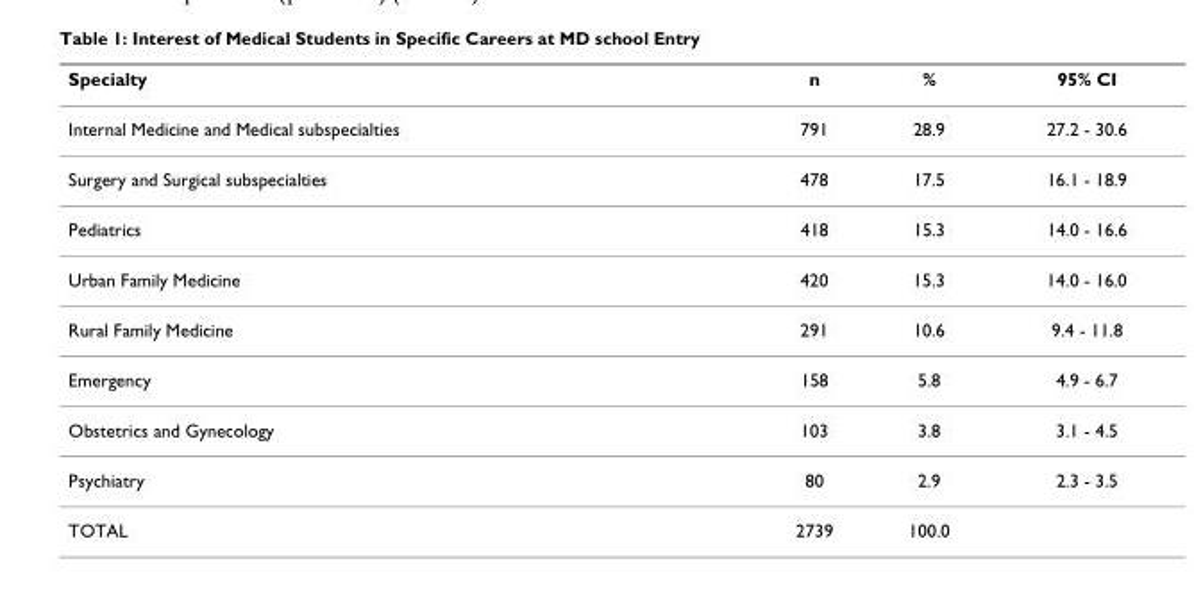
<table><thead><tr><td>Specialty</td><td>n</td><td>%</td><td>95% CI</td></tr></thead><tbody><tr><td>Internal Medicine and Medical subspecialties</td><td>791</td><td>28.9</td><td>27.2 - 30.6</td></tr><tr><td>Surgery and Surgical subspecialties</td><td>478</td><td>17.5</td><td>16.1 - 18.9</td></tr><tr><td>Pediatrics</td><td>418</td><td>15.3</td><td>14.0 - 16.6</td></tr><tr><td>Urban Family Medicine</td><td>420</td><td>15.3</td><td>14.0 - 16.0</td></tr><tr><td>Rural Family Medicine</td><td>291</td><td>10.6</td><td>9.4 - 11.8</td></tr><tr><td>Emergency</td><td>158</td><td>5.8</td><td>4.9 - 6.7</td></tr><tr><td>Obstetrics and Gynecology</td><td>103</td><td>3.8</td><td>3.1 - 4.5</td></tr><tr><td>Psychiatry</td><td>80</td><td>2.9</td><td>2.3 - 3.5</td></tr><tr><td>TOTAL</td><td>2739</td><td>100.0</td><td></td></tr></tbody></table>